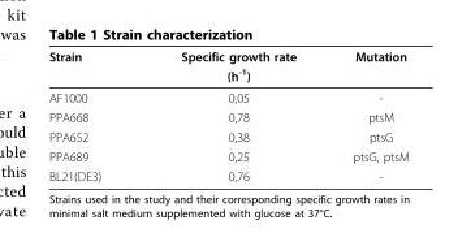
<table><thead><tr><td rowspan="2">Strain</td><td rowspan="2">Specific growth rate (h<sup>-1</sup>)</td><td rowspan="2">Mutation</td></tr><tr></tr></thead><tbody><tr><td>AF1000</td><td>0,05</td><td>-</td></tr><tr><td>PPA668</td><td>0,78</td><td>ptsM</td></tr><tr><td>PPA652</td><td>0,38</td><td>ptsG</td></tr><tr><td>PPA689</td><td>0,25</td><td>ptsG, ptsM</td></tr><tr><td>BL21(DE3)</td><td>0,76</td><td>-</td></tr></tbody></table>